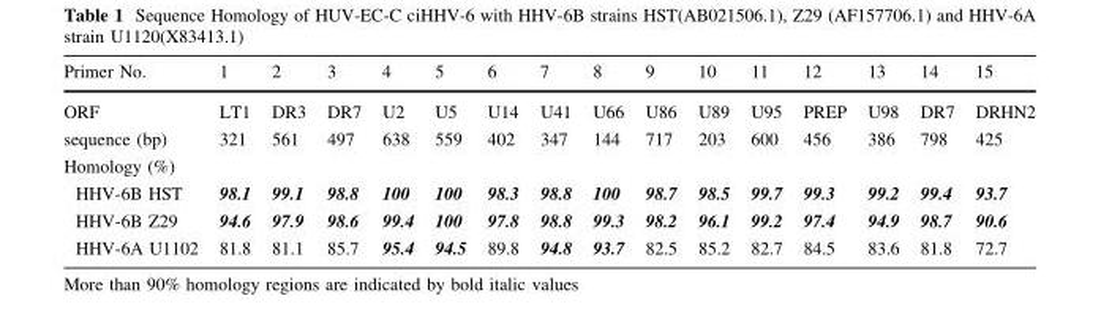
<table><thead><tr><td>Primer No.</td><td>1</td><td>2</td><td>3</td><td>4</td><td>5</td><td>6</td><td>7</td><td>8</td><td>9</td><td>10</td><td>11</td><td>12</td><td>13</td><td>14</td><td>15</td></tr></thead><tbody><tr><td>ORF sequence (bp)</td><td>LT1 321</td><td>DR3 561</td><td>DR7 497</td><td>U2 638</td><td>U5 559</td><td>U14 402</td><td>U41 347</td><td>U66 144</td><td>U86 717</td><td>U89 203</td><td>U95 600</td><td>PREP 456</td><td>U98 386</td><td>DR7 798</td><td>DRHN2 425</td></tr><tr><td colspan="16">Homology (%)</td></tr><tr><td>HHV-6B HST</td><td>98.1</td><td>99.1</td><td>98.8</td><td>100</td><td>100</td><td>98.3</td><td>98.8</td><td>100</td><td>98.7</td><td>98.5</td><td>99.7</td><td>99.3</td><td>99.2</td><td>99.4</td><td>93.7</td></tr><tr><td>HHV-6B Z29</td><td>94.6</td><td>97.9</td><td>98.6</td><td>99.4</td><td>100</td><td>97.8</td><td>98.8</td><td>99.3</td><td>98.2</td><td>96.1</td><td>99.2</td><td>97.4</td><td>94.9</td><td>98.7</td><td>90.6</td></tr><tr><td>HHV-6A U1102</td><td>81.8</td><td>81.1</td><td>85.7</td><td>95.4</td><td>94.5</td><td>89.8</td><td>94.8</td><td>93.7</td><td>82.5</td><td>85.2</td><td>82.7</td><td>84.5</td><td>83.6</td><td>81.8</td><td>72.7</td></tr></tbody></table>